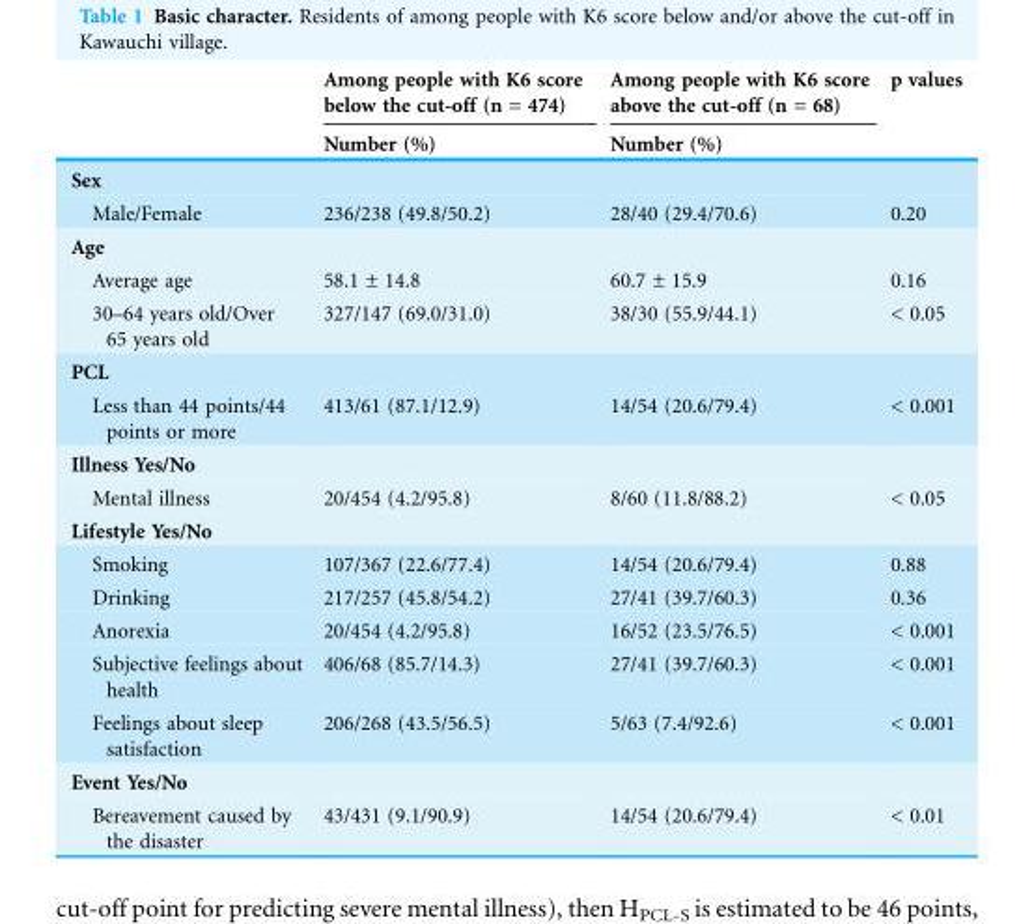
<table><thead><tr><td rowspan="2"></td><td rowspan="2">Among people with K6 score below the cut-off (n = 474) Number (%)</td><td rowspan="2">Among people with K6 score above the cut-off (n = 68) Number (%)</td><td rowspan="2">p values</td></tr><tr></tr></thead><tbody><tr><td colspan="4">Sex</td></tr><tr><td>Male/Female</td><td>236/238 (49.8/50.2)</td><td>28/40 (29.4/70.6)</td><td>0.20</td></tr><tr><td colspan="4">Age</td></tr><tr><td>Average age</td><td>58.1 ± 14.8</td><td>60.7 ± 15.9</td><td>0.16</td></tr><tr><td>30–64 years old/Over 65 years old</td><td>327/147 (69.0/31.0)</td><td>38/30 (55.9/44.1)</td><td>&lt; 0.05</td></tr><tr><td colspan="4">PCL</td></tr><tr><td>Less than 44 points/44 points or more</td><td>413/61 (87.1/12.9)</td><td>14/54 (20.6/79.4)</td><td>&lt; 0.001</td></tr><tr><td colspan="4">Illness Yes/No</td></tr><tr><td>Mental illness</td><td>20/454 (4.2/95.8)</td><td>8/60 (11.8/88.2)</td><td>&lt; 0.05</td></tr><tr><td colspan="4">Lifestyle Yes/No</td></tr><tr><td>Smoking</td><td>107/367 (22.6/77.4)</td><td>14/54 (20.6/79.4)</td><td>0.88</td></tr><tr><td>Drinking</td><td>217/257 (45.8/54.2)</td><td>27/41 (39.7/60.3)</td><td>0.36</td></tr><tr><td>Anorexia</td><td>20/454 (4.2/95.8)</td><td>16/52 (23.5/76.5)</td><td>&lt; 0.001</td></tr><tr><td>Subjective feelings about health</td><td>406/68 (85.7/14.3)</td><td>27/41 (39.7/60.3)</td><td>&lt; 0.001</td></tr><tr><td>Feelings about sleep satisfaction</td><td>206/268 (43.5/56.5)</td><td>5/63 (7.4/92.6)</td><td>&lt; 0.001</td></tr><tr><td colspan="4">Event Yes/No</td></tr><tr><td>Bereavement caused by the disaster</td><td>43/431 (9.1/90.9)</td><td>14/54 (20.6/79.4)</td><td>&lt; 0.01</td></tr></tbody></table>